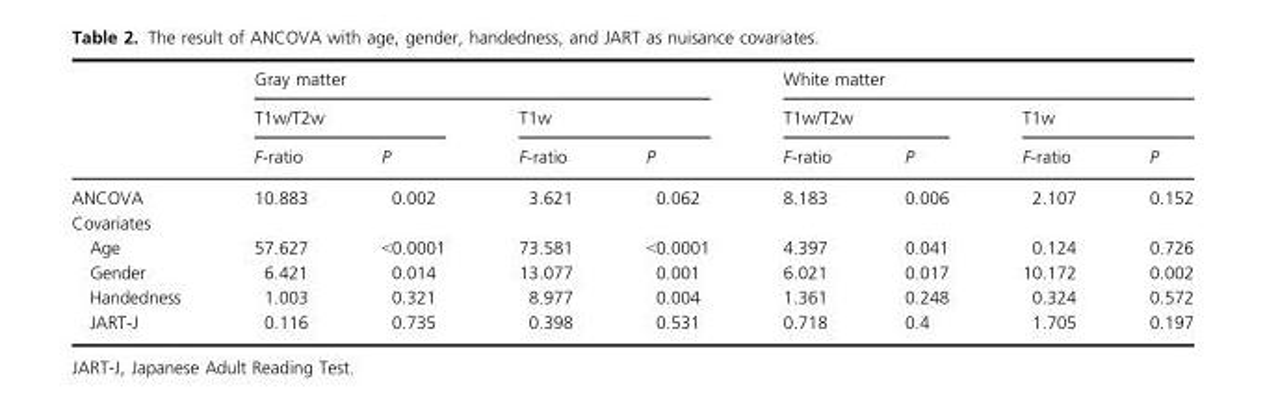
<table><thead><tr><td rowspan="3"></td><td colspan="4">Gray matter</td><td colspan="4">White matter</td></tr><tr><td colspan="2">T1w/T2w</td><td colspan="2">T1w</td><td colspan="2">T1w/T2w</td><td colspan="2">T1w</td></tr><tr><td>F-ratio</td><td>P</td><td>F-ratio</td><td>P</td><td>F-ratio</td><td>P</td><td>F-ratio</td><td>P</td></tr></thead><tbody><tr><td>ANCOVA</td><td>10.883</td><td>0.002</td><td>3.621</td><td>0.062</td><td>8.183</td><td>0.006</td><td>2.107</td><td>0.152</td></tr><tr><td colspan="9">Covariates</td></tr><tr><td>Age</td><td>57.627</td><td>&lt;0.0001</td><td>73.581</td><td>&lt;0.0001</td><td>4.397</td><td>0.041</td><td>0.124</td><td>0.726</td></tr><tr><td>Gender</td><td>6.421</td><td>0.014</td><td>13.077</td><td>0.001</td><td>6.021</td><td>0.017</td><td>10.172</td><td>0.002</td></tr><tr><td>Handedness</td><td>1.003</td><td>0.321</td><td>8.977</td><td>0.004</td><td>1.361</td><td>0.248</td><td>0.324</td><td>0.572</td></tr><tr><td>JART-J</td><td>0.116</td><td>0.735</td><td>0.398</td><td>0.531</td><td>0.718</td><td>0.4</td><td>1.705</td><td>0.197</td></tr></tbody></table>